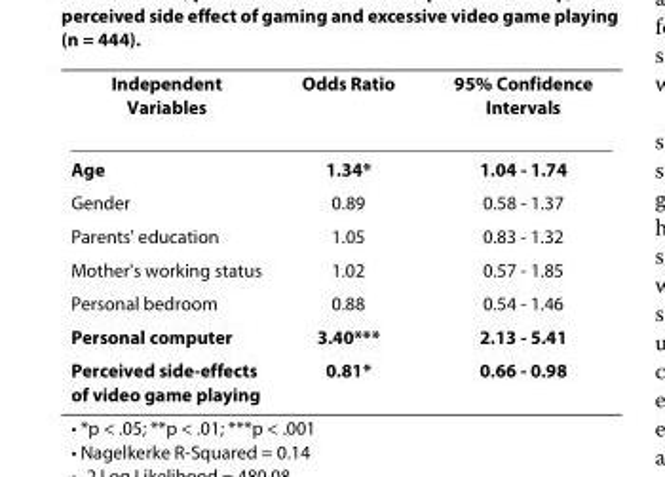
<table><thead><tr><td>Independent Variables</td><td>Odds Ratio</td><td>95% Confidence Intervals</td></tr></thead><tbody><tr><td>Age</td><td>1.34*</td><td>1.04 - 1.74</td></tr><tr><td>Gender</td><td>0.89</td><td>0.58 - 1.37</td></tr><tr><td>Parents&#x27; education</td><td>1.05</td><td>0.83 - 1.32</td></tr><tr><td>Mother&#x27;s working status</td><td>1.02</td><td>0.57 - 1.85</td></tr><tr><td>Personal bedroom</td><td>0.88</td><td>0.54 - 1.46</td></tr><tr><td>Personal computer</td><td>3.40***</td><td>2.13 - 5.41</td></tr><tr><td>Perceived side-effects of video game playing</td><td>0.81*</td><td>0.66 - 0.98</td></tr></tbody></table>